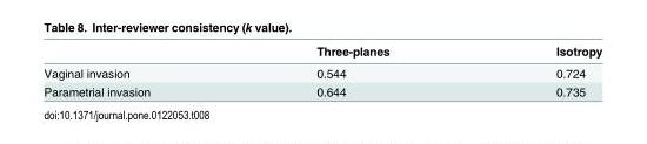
<table><thead><tr><td></td><td>Three-planes</td><td>Isotropy</td></tr></thead><tbody><tr><td>Vaginal invasion</td><td>0.544</td><td>0.724</td></tr><tr><td>Parametrial invasion</td><td>0.644</td><td>0.735</td></tr></tbody></table>